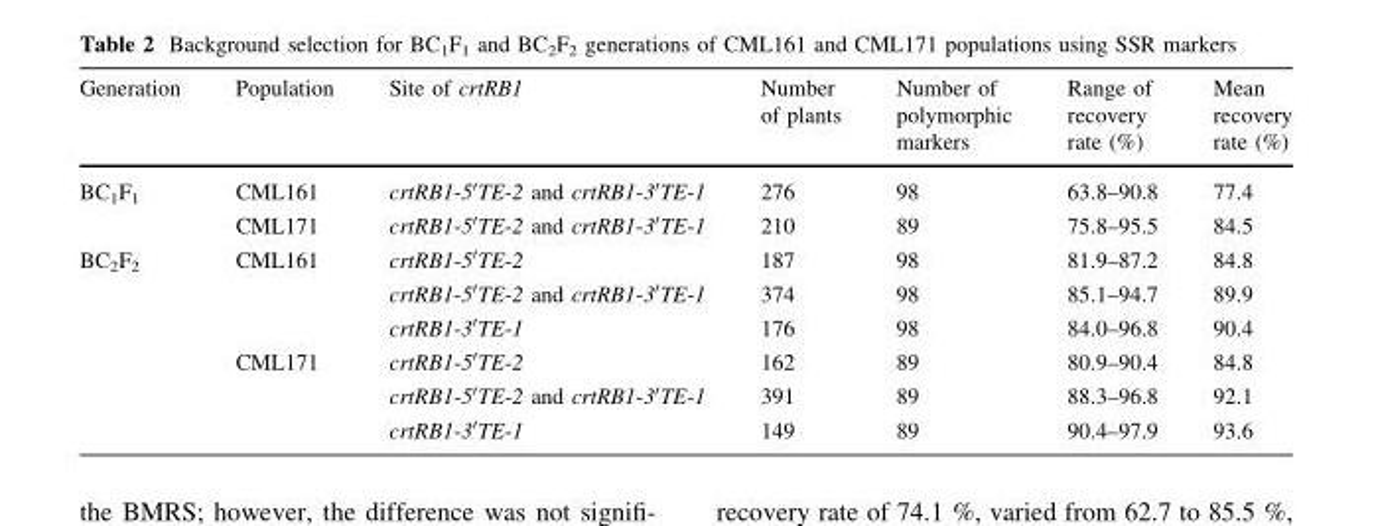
<table><thead><tr><td>Generation</td><td>Population</td><td>Site of crtRB1</td><td>Number of plants</td><td>Number of polymorphic markers</td><td>Range of recovery rate (%)</td><td>Mean recovery rate (%)</td></tr></thead><tbody><tr><td rowspan="2">BC<sub>1</sub>F<sub>1</sub></td><td>CML161</td><td>crtRB1-5′TE-2 and crtRB1-3′TE-1</td><td>276</td><td>98</td><td>63.8–90.8</td><td>77.4</td></tr><tr><td>CML171</td><td>crtRB1-5′TE-2 and crtRB1-3′TE-1</td><td>210</td><td>89</td><td>75.8–95.5</td><td>84.5</td></tr><tr><td rowspan="6">BC<sub>2</sub>F<sub>2</sub></td><td rowspan="3">CML161</td><td>crtRB1-5′TE-2</td><td>187</td><td>98</td><td>81.9–87.2</td><td>84.8</td></tr><tr><td>crtRB1-5′TE-2 and crtRB1-3′TE-1</td><td>374</td><td>98</td><td>85.1–94.7</td><td>89.9</td></tr><tr><td>crtRB1-3′TE-1</td><td>176</td><td>98</td><td>84.0–96.8</td><td>90.4</td></tr><tr><td rowspan="3">CML171</td><td>crtRB1-5′TE-2</td><td>162</td><td>89</td><td>80.9–90.4</td><td>84.8</td></tr><tr><td>crtRB1-5′TE-2 and crtRB1-3′TE-1</td><td>391</td><td>89</td><td>88.3–96.8</td><td>92.1</td></tr><tr><td>crtRB1-3′TE-1</td><td>149</td><td>89</td><td>90.4–97.9</td><td>93.6</td></tr></tbody></table>